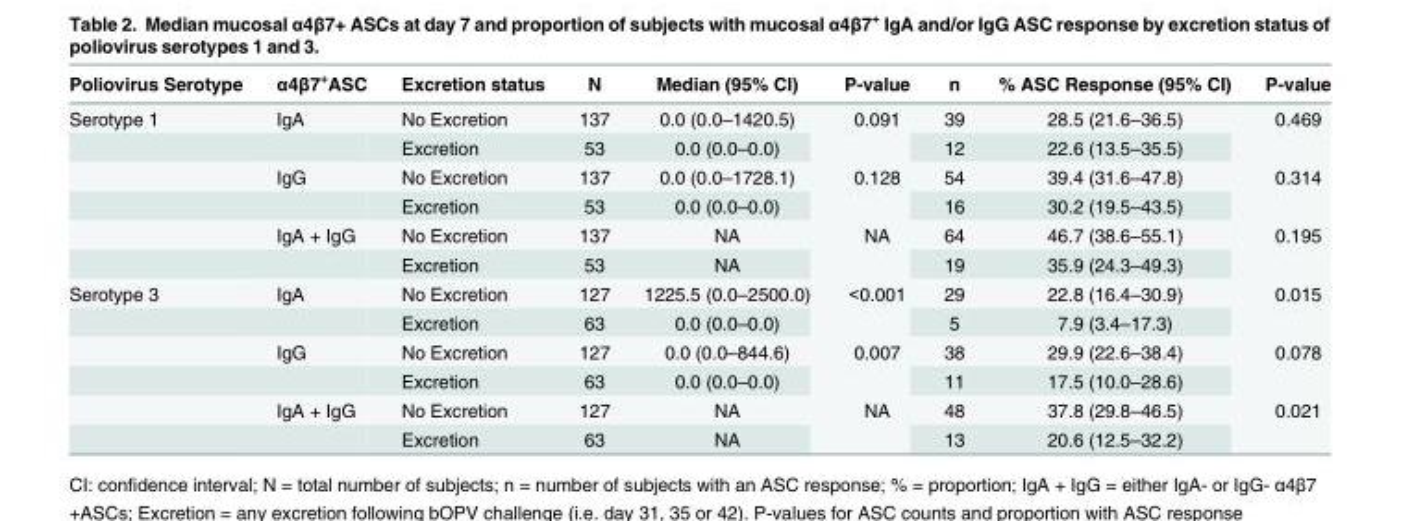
<table><thead><tr><td>Poliovirus Serotype</td><td>α4β7<sup>+</sup>ASC</td><td>Excretion status</td><td>N</td><td>Median (95% CI)</td><td>P-value</td><td>n</td><td>% ASC Response (95% CI)</td><td>P-value</td></tr></thead><tbody><tr><td rowspan="6">Serotype 1</td><td>IgA</td><td>No Excretion</td><td>137</td><td>0.0 (0.0–1420.5)</td><td rowspan="2">0.091</td><td>39</td><td>28.5 (21.6–36.5)</td><td rowspan="2">0.469</td></tr><tr><td></td><td>Excretion</td><td>53</td><td>0.0 (0.0–0.0)</td><td>12</td><td>22.6 (13.5–35.5)</td></tr><tr><td>IgG</td><td>No Excretion</td><td>137</td><td>0.0 (0.0–1728.1)</td><td rowspan="2">0.128</td><td>54</td><td>39.4 (31.6–47.8)</td><td rowspan="2">0.314</td></tr><tr><td></td><td>Excretion</td><td>53</td><td>0.0 (0.0–0.0)</td><td>16</td><td>30.2 (19.5–43.5)</td></tr><tr><td>IgA + IgG</td><td>No Excretion</td><td>137</td><td>NA</td><td rowspan="2">NA</td><td>64</td><td>46.7 (38.6–55.1)</td><td rowspan="2">0.195</td></tr><tr><td></td><td>Excretion</td><td>53</td><td>NA</td><td>19</td><td>35.9 (24.3–49.3)</td></tr><tr><td rowspan="6">Serotype 3</td><td>IgA</td><td>No Excretion</td><td>127</td><td>1225.5 (0.0–2500.0)</td><td rowspan="2">&lt;0.001</td><td>29</td><td>22.8 (16.4–30.9)</td><td rowspan="2">0.015</td></tr><tr><td></td><td>Excretion</td><td>63</td><td>0.0 (0.0–0.0)</td><td>5</td><td>7.9 (3.4–17.3)</td></tr><tr><td>IgG</td><td>No Excretion</td><td>127</td><td>0.0 (0.0–844.6)</td><td rowspan="2">0.007</td><td>38</td><td>29.9 (22.6–38.4)</td><td rowspan="2">0.078</td></tr><tr><td></td><td>Excretion</td><td>63</td><td>0.0 (0.0–0.0)</td><td>11</td><td>17.5 (10.0–28.6)</td></tr><tr><td>IgA + IgG</td><td>No Excretion</td><td>127</td><td>NA</td><td rowspan="2">NA</td><td>48</td><td>37.8 (29.8–46.5)</td><td rowspan="2">0.021</td></tr><tr><td></td><td>Excretion</td><td>63</td><td>NA</td><td>13</td><td>20.6 (12.5–32.2)</td></tr></tbody></table>